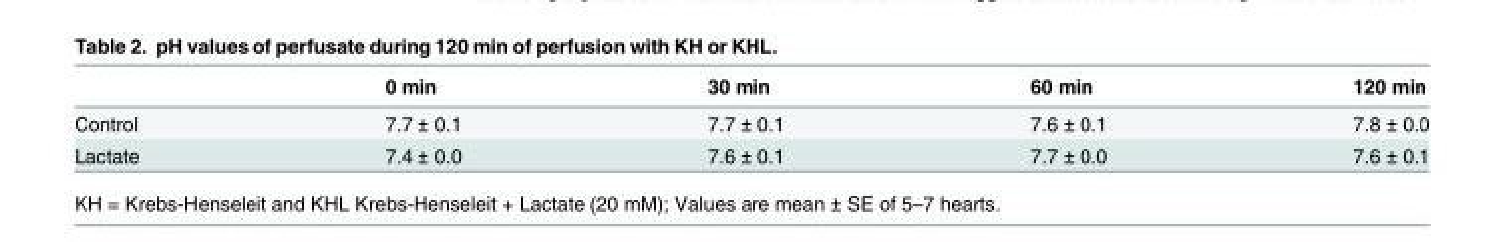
<table><thead><tr><td></td><td>0 min</td><td>30 min</td><td>60 min</td><td>120 min</td></tr></thead><tbody><tr><td>Control</td><td>7.7 ± 0.1</td><td>7.7 ± 0.1</td><td>7.6 ± 0.1</td><td>7.8 ± 0.0</td></tr><tr><td>Lactate</td><td>7.4 ± 0.0</td><td>7.6 ± 0.1</td><td>7.7 ± 0.0</td><td>7.6 ± 0.1</td></tr></tbody></table>